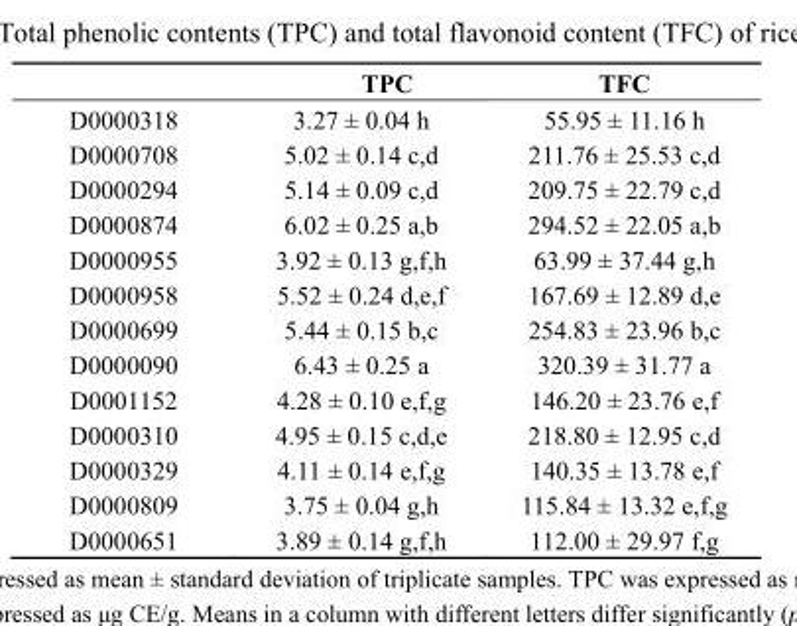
<table><thead><tr><td></td><td>TPC</td><td>TFC</td></tr></thead><tbody><tr><td>D0000318</td><td>3.27 ± 0.04 h</td><td>55.95 ± 11.16 h</td></tr><tr><td>D0000708</td><td>5.02 ± 0.14 c,d</td><td>211.76 ± 25.53 c,d</td></tr><tr><td>D0000294</td><td>5.14 ± 0.09 c,d</td><td>209.75 ± 22.79 c,d</td></tr><tr><td>D0000874</td><td>6.02 ± 0.25 a,b</td><td>294.52 ± 22.05 a,b</td></tr><tr><td>D0000955</td><td>3.92 ± 0.13 g,f,h</td><td>63.99 ± 37.44 g,h</td></tr><tr><td>D0000958</td><td>5.52 ± 0.24 d,e,f</td><td>167.69 ± 12.89 d,e</td></tr><tr><td>D0000699</td><td>5.44 ± 0.15 b,c</td><td>254.83 ± 23.96 b,c</td></tr><tr><td>D0000090</td><td>6.43 ± 0.25 a</td><td>320.39 ± 31.77 a</td></tr><tr><td>D0001152</td><td>4.28 ± 0.10 e,f,g</td><td>146.20 ± 23.76 e,f</td></tr><tr><td>D0000310</td><td>4.95 ± 0.15 c,d,e</td><td>218.80 ± 12.95 c,d</td></tr><tr><td>D0000329</td><td>4.11 ± 0.14 e,f,g</td><td>140.35 ± 13.78 e,f</td></tr><tr><td>D0000809</td><td>3.75 ± 0.04 g,h</td><td>115.84 ± 13.32 e,f,g</td></tr><tr><td>D0000651</td><td>3.89 ± 0.14 g,f,h</td><td>112.00 ± 29.97 f,g</td></tr></tbody></table>